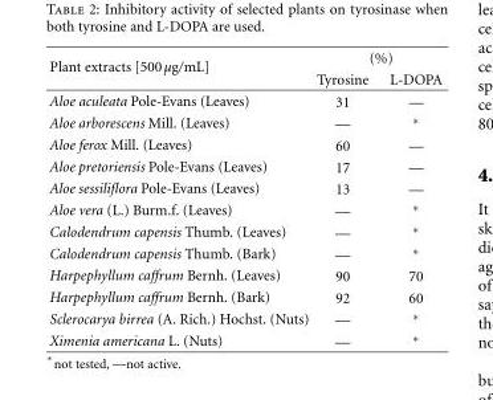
<table><thead><tr><td rowspan="2">Plant extracts [500 µg/mL]</td><td colspan="2">(%)</td></tr><tr><td>Tyrosine</td><td>L-DOPA</td></tr></thead><tbody><tr><td>Aloe aculeata Pole-Evans (Leaves)</td><td>31</td><td>—</td></tr><tr><td>Aloe arborescens Mill. (Leaves)</td><td>—</td><td>∗</td></tr><tr><td>Aloe ferox Mill. (Leaves)</td><td>60</td><td>—</td></tr><tr><td>Aloe pretoriensis Pole-Evans (Leaves)</td><td>17</td><td>—</td></tr><tr><td>Aloe sessiliflora Pole-Evans (Leaves)</td><td>13</td><td>—</td></tr><tr><td>Aloe vera (L.) Burm.f. (Leaves)</td><td>—</td><td>∗</td></tr><tr><td>Calodendrum capensis Thumb. (Leaves)</td><td>—</td><td>∗</td></tr><tr><td>Calodendrum capensis Thumb. (Bark)</td><td>—</td><td>∗</td></tr><tr><td>Harpephyllum caffrum Bernh. (Leaves)</td><td>90</td><td>70</td></tr><tr><td>Harpephyllum caffrum Bernh. (Bark)</td><td>92</td><td>60</td></tr><tr><td>Sclerocarya birrea (A. Rich.) Hochst. (Nuts)</td><td>—</td><td>∗</td></tr><tr><td>Ximenia americana L. (Nuts)</td><td>—</td><td>∗</td></tr></tbody></table>